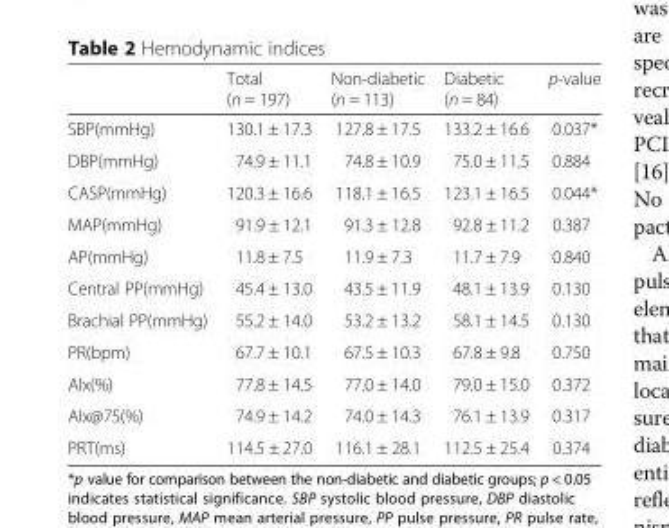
<table><thead><tr><td></td><td>Total (n = 197)</td><td>Non-diabetic (n = 113)</td><td>Diabetic (n = 84)</td><td>p-value</td></tr></thead><tbody><tr><td>SBP(mmHg)</td><td>130.1 ± 17.3</td><td>127.8 ± 17.5</td><td>133.2 ± 16.6</td><td>0.037*</td></tr><tr><td>DBP(mmHg)</td><td>74.9 ± 11.1</td><td>74.8 ± 10.9</td><td>75.0 ± 11.5</td><td>0.884</td></tr><tr><td>CASP(mmHg)</td><td>120.3 ± 16.6</td><td>118.1 ± 16.5</td><td>123.1 ± 16.5</td><td>0.044*</td></tr><tr><td>MAP(mmHg)</td><td>91.9 ± 12.1</td><td>91.3 ± 12.8</td><td>92.8 ± 11.2</td><td>0.387</td></tr><tr><td>AP(mmHg)</td><td>11.8 ± 7.5</td><td>11.9 ± 7.3</td><td>11.7 ± 7.9</td><td>0.840</td></tr><tr><td>Central PP(mmHg)</td><td>45.4 ± 13.0</td><td>43.5 ± 11.9</td><td>48.1 ± 13.9</td><td>0.130</td></tr><tr><td>Brachial PP(mmHg)</td><td>55.2 ± 14.0</td><td>53.2 ± 13.2</td><td>58.1 ± 14.5</td><td>0.130</td></tr><tr><td>PR(bpm)</td><td>67.7 ± 10.1</td><td>67.5 ± 10.3</td><td>67.8 ± 9.8</td><td>0.750</td></tr><tr><td>AIx(%)</td><td>77.8 ± 14.5</td><td>77.0 ± 14.0</td><td>79.0 ± 15.0</td><td>0.372</td></tr><tr><td>AIx@75(%)</td><td>74.9 ± 14.2</td><td>74.0 ± 14.3</td><td>76.1 ± 13.9</td><td>0.317</td></tr><tr><td>PRT(ms)</td><td>114.5 ± 27.0</td><td>116.1 ± 28.1</td><td>112.5 ± 25.4</td><td>0.374</td></tr></tbody></table>